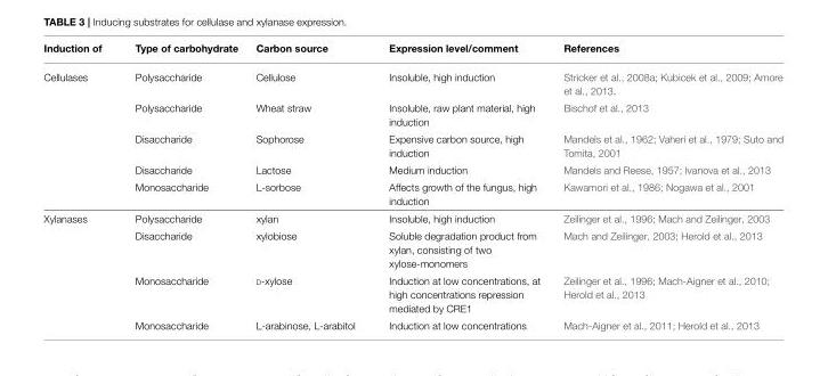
<table><thead><tr><td>Induction of</td><td>Type of carbohydrate</td><td>Carbon source</td><td>Expression level/comment</td><td>References</td></tr></thead><tbody><tr><td rowspan="5">Cellulases</td><td>Polysaccharide</td><td>Cellulose</td><td>Insoluble, high induction</td><td>Stricker et al., 2008a; Kubicek et al., 2009; Amore et al., 2013.</td></tr><tr><td>Polysaccharide</td><td>Wheat straw</td><td>Insoluble, raw plant material, high induction</td><td>Bischof et al., 2013</td></tr><tr><td>Disaccharide</td><td>Sophorose</td><td>Expensive carbon source, high induction</td><td>Mandels et al., 1962; Vaheri et al., 1979; Suto and Tomita, 2001</td></tr><tr><td>Disaccharide</td><td>Lactose</td><td>Medium induction</td><td>Mandels and Reese, 1957; Ivanova et al., 2013</td></tr><tr><td>Monosaccharide</td><td>L-sorbose</td><td>Affects growth of the fungus, high induction</td><td>Kawamori et al., 1986; Nogawa et al., 2001</td></tr><tr><td rowspan="4">Xylanases</td><td>Polysaccharide</td><td>xylan</td><td>Insoluble, high induction</td><td>Zeilinger et al., 1996; Mach and Zeilinger, 2003</td></tr><tr><td>Disaccharide</td><td>xylobiose</td><td>Soluble degradation product from xylan, consisting of two xylose-monomers</td><td>Mach and Zeilinger, 2003; Herold et al., 2013</td></tr><tr><td>Monosaccharide</td><td>D-xylose</td><td>Induction at low concentrations, at high concentrations repression mediated by CRE1</td><td>Zeilinger et al., 1996; Mach-Aigner et al., 2010; Herold et al., 2013</td></tr><tr><td>Monosaccharide</td><td>L-arabinose, L-arabitol</td><td>Induction at low concentrations</td><td>Mach-Aigner et al., 2011; Herold et al., 2013</td></tr></tbody></table>